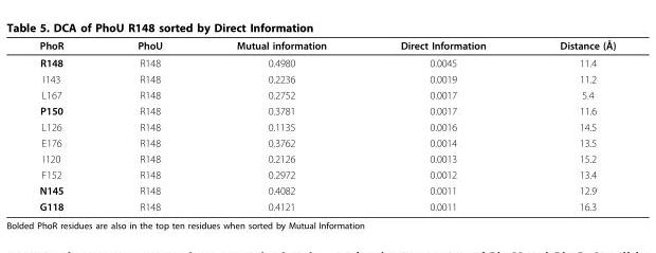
<table><thead><tr><td>PhoR</td><td>PhoU</td><td>Mutual information</td><td>Direct Information</td><td>Distance (Å)</td></tr></thead><tbody><tr><td>R148</td><td>R148</td><td>0.4980</td><td>0.0045</td><td>11.4</td></tr><tr><td>I143</td><td>R148</td><td>0.2236</td><td>0.0019</td><td>11.2</td></tr><tr><td>L167</td><td>R148</td><td>0.2752</td><td>0.0017</td><td>5.4</td></tr><tr><td>P150</td><td>R148</td><td>0.3781</td><td>0.0017</td><td>11.6</td></tr><tr><td>L126</td><td>R148</td><td>0.1135</td><td>0.0016</td><td>14.5</td></tr><tr><td>E176</td><td>R148</td><td>0.3762</td><td>0.0014</td><td>13.5</td></tr><tr><td>I120</td><td>R148</td><td>0.2126</td><td>0.0013</td><td>15.2</td></tr><tr><td>F152</td><td>R148</td><td>0.2972</td><td>0.0012</td><td>13.4</td></tr><tr><td>N145</td><td>R148</td><td>0.4082</td><td>0.0011</td><td>12.9</td></tr><tr><td>G118</td><td>R148</td><td>0.4121</td><td>0.0011</td><td>16.3</td></tr></tbody></table>